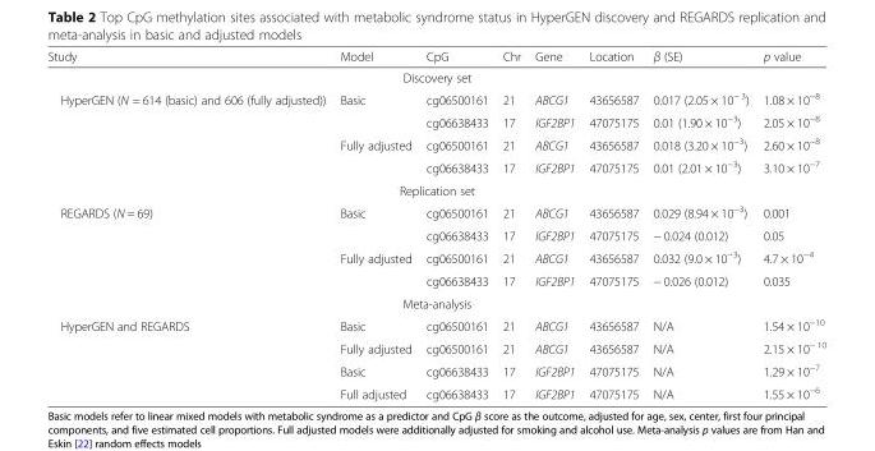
<table><thead><tr><td>Study</td><td>Model</td><td>CpG</td><td>Chr</td><td>Gene</td><td>Location</td><td>β (SE)</td><td>p value</td></tr></thead><tbody><tr><td colspan="8">Discovery set</td></tr><tr><td rowspan="4">HyperGEN (N = 614 (basic) and 606 (fully adjusted))</td><td rowspan="2">Basic</td><td>cg06500161</td><td>21</td><td>ABCG1</td><td>43656587</td><td>0.017 (2.05 × 10<sup>− 3</sup>)</td><td>1.08 × 10<sup>−8</sup></td></tr><tr><td>cg06638433</td><td>17</td><td>IGF2BP1</td><td>47075175</td><td>0.01 (1.90 × 10<sup>−3</sup>)</td><td>2.05 × 10<sup>−8</sup></td></tr><tr><td rowspan="2">Fully adjusted</td><td>cg06500161</td><td>21</td><td>ABCG1</td><td>43656587</td><td>0.018 (3.20 × 10<sup>−3</sup>)</td><td>2.60 × 10<sup>−8</sup></td></tr><tr><td>cg06638433</td><td>17</td><td>IGF2BP1</td><td>47075175</td><td>0.01 (2.01 × 10<sup>−3</sup>)</td><td>3.10 × 10<sup>−7</sup></td></tr><tr><td colspan="8">Replication set</td></tr><tr><td rowspan="4">REGARDS (N = 69)</td><td>Basic</td><td>cg06500161</td><td>21</td><td>ABCG1</td><td>43656587</td><td>0.029 (8.94 × 10<sup>−3</sup>)</td><td>0.001</td></tr><tr><td></td><td>cg06638433</td><td>17</td><td>IGF2BP1</td><td>47075175</td><td>− 0.024 (0.012)</td><td>0.05</td></tr><tr><td>Fully adjusted</td><td>cg06500161</td><td>21</td><td>ABCG1</td><td>43656587</td><td>0.032 (9.0 × 10<sup>−3</sup>)</td><td>4.7 × 10<sup>−4</sup></td></tr><tr><td></td><td>cg06638433</td><td>17</td><td>IGF2BP1</td><td>47075175</td><td>− 0.026 (0.012)</td><td>0.035</td></tr><tr><td colspan="8">Meta-analysis</td></tr><tr><td rowspan="4">HyperGEN and REGARDS</td><td>Basic</td><td>cg06500161</td><td>21</td><td>ABCG1</td><td>43656587</td><td>N/A</td><td>1.54 × 10<sup>−10</sup></td></tr><tr><td>Fully adjusted</td><td>cg06500161</td><td>21</td><td>ABCG1</td><td>43656587</td><td>N/A</td><td>2.15 × 10<sup>− 10</sup></td></tr><tr><td>Basic</td><td>cg06638433</td><td>17</td><td>IGF2BP1</td><td>47075175</td><td>N/A</td><td>1.29 × 10<sup>−7</sup></td></tr><tr><td>Full adjusted</td><td>cg06638433</td><td>17</td><td>IGF2BP1</td><td>47075175</td><td>N/A</td><td>1.55 × 10<sup>−6</sup></td></tr></tbody></table>